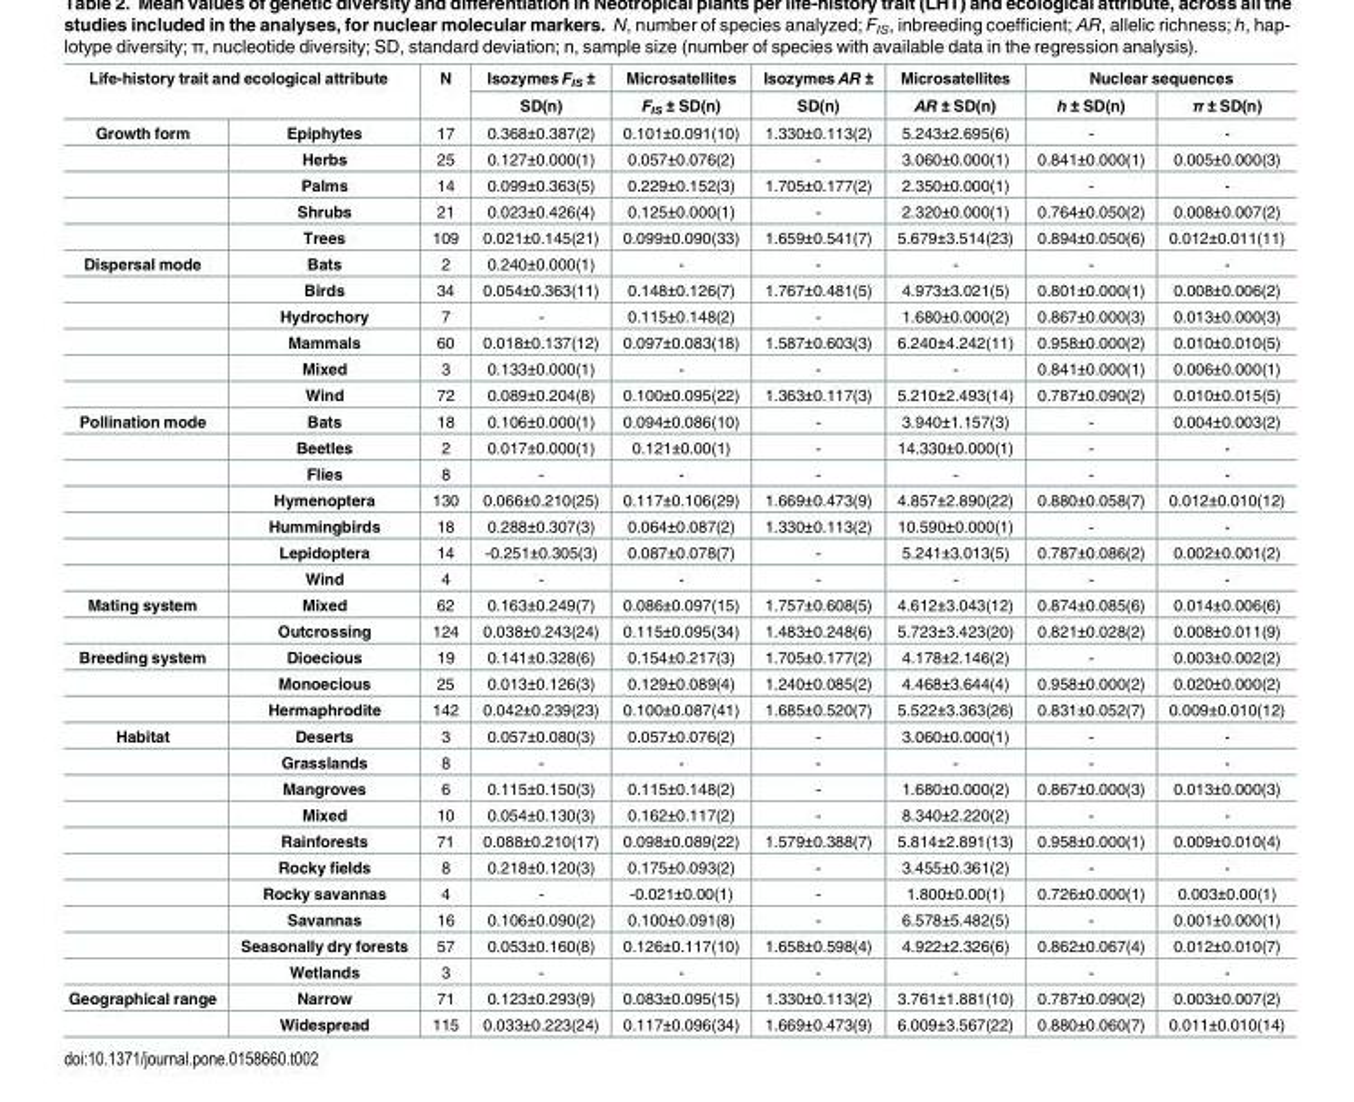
<table><thead><tr><td rowspan="2" colspan="2">Life-history trait and ecological attribute</td><td rowspan="3">N 17</td><td rowspan="3">Isozymes F<sub>IS</sub> ± SD(n) 0.368±0.387(2)</td><td rowspan="3">Microsatellites F<sub>IS</sub> ± SD(n) 0.101±0.091(10)</td><td rowspan="3">Isozymes AR ± SD(n) 1.330±0.113(2)</td><td rowspan="3">Microsatellites AR ± SD(n) 5.243±2.695(6)</td><td colspan="2">Nuclear sequences</td></tr><tr><td rowspan="2">h ± SD(n) -</td><td rowspan="2">π ± SD(n) -</td></tr><tr><td>Growth form</td><td>Epiphytes</td></tr></thead><tbody><tr><td></td><td>Herbs</td><td>25</td><td>0.127±0.000(1)</td><td>0.057±0.076(2)</td><td>-</td><td>3.060±0.000(1)</td><td>0.841±0.000(1)</td><td>0.005±0.000(3)</td></tr><tr><td></td><td>Palms</td><td>14</td><td>0.099±0.363(5)</td><td>0.229±0.152(3)</td><td>1.705±0.177(2)</td><td>2.350±0.000(1)</td><td>-</td><td>-</td></tr><tr><td></td><td>Shrubs</td><td>21</td><td>0.023±0.426(4)</td><td>0.125±0.000(1)</td><td>-</td><td>2.320±0.000(1)</td><td>0.764±0.050(2)</td><td>0.008±0.007(2)</td></tr><tr><td></td><td>Trees</td><td>109</td><td>0.021±0.145(21)</td><td>0.099±0.090(33)</td><td>1.659±0.541(7)</td><td>5.679±3.514(23)</td><td>0.894±0.050(6)</td><td>0.012±0.011(11)</td></tr><tr><td rowspan="6">Dispersal mode</td><td>Bats</td><td>2</td><td>0.240±0.000(1)</td><td>-</td><td>-</td><td>-</td><td>-</td><td>-</td></tr><tr><td>Birds</td><td>34</td><td>0.054±0.363(11)</td><td>0.148±0.126(7)</td><td>1.767±0.481(5)</td><td>4.973±3.021(5)</td><td>0.801±0.000(1)</td><td>0.008±0.006(2)</td></tr><tr><td>Hydrochory</td><td>7</td><td>-</td><td>0.115±0.148(2)</td><td>-</td><td>1.680±0.000(2)</td><td>0.867±0.000(3)</td><td>0.013±0.000(3)</td></tr><tr><td>Mammals</td><td>60</td><td>0.018±0.137(12)</td><td>0.097±0.083(18)</td><td>1.587±0.603(3)</td><td>6.240±4.242(11)</td><td>0.958±0.000(2)</td><td>0.010±0.010(5)</td></tr><tr><td>Mixed</td><td>3</td><td>0.133±0.000(1)</td><td>-</td><td>-</td><td>-</td><td>0.841±0.000(1)</td><td>0.006±0.000(1)</td></tr><tr><td>Wind</td><td>72</td><td>0.089±0.204(8)</td><td>0.100±0.095(22)</td><td>1.363±0.117(3)</td><td>5.210±2.493(14)</td><td>0.787±0.090(2)</td><td>0.010±0.015(5)</td></tr><tr><td rowspan="7">Pollination mode</td><td>Bats</td><td>18</td><td>0.106±0.000(1)</td><td>0.094±0.086(10)</td><td>-</td><td>3.940±1.157(3)</td><td>-</td><td>0.004±0.003(2)</td></tr><tr><td>Beetles</td><td>2</td><td>0.017±0.000(1)</td><td>0.121±0.00(1)</td><td>-</td><td>14.330±0.000(1)</td><td>-</td><td>-</td></tr><tr><td>Flies</td><td>8</td><td>-</td><td>-</td><td>-</td><td>-</td><td>-</td><td>-</td></tr><tr><td>Hymenoptera</td><td>130</td><td>0.066±0.210(25)</td><td>0.117±0.106(29)</td><td>1.669±0.473(9)</td><td>4.857±2.890(22)</td><td>0.880±0.058(7)</td><td>0.012±0.010(12)</td></tr><tr><td>Hummingbirds</td><td>18</td><td>0.288±0.307(3)</td><td>0.064±0.087(2)</td><td>1.330±0.113(2)</td><td>10.590±0.000(1)</td><td>-</td><td>-</td></tr><tr><td>Lepidoptera</td><td>14</td><td>-0.251±0.305(3)</td><td>0.087±0.078(7)</td><td>-</td><td>5.241±3.013(5)</td><td>0.787±0.086(2)</td><td>0.002±0.001(2)</td></tr><tr><td>Wind</td><td>4</td><td>-</td><td>-</td><td>-</td><td>-</td><td>-</td><td>-</td></tr><tr><td rowspan="2">Mating system</td><td>Mixed</td><td>62</td><td>0.163±0.249(7)</td><td>0.086±0.097(15)</td><td>1.757±0.608(5)</td><td>4.612±3.043(12)</td><td>0.874±0.085(6)</td><td>0.014±0.006(6)</td></tr><tr><td>Outcrossing</td><td>124</td><td>0.038±0.243(24)</td><td>0.115±0.095(34)</td><td>1.483±0.248(6)</td><td>5.723±3.423(20)</td><td>0.821±0.028(2)</td><td>0.008±0.011(9)</td></tr><tr><td rowspan="3">Breeding system</td><td>Dioecious</td><td>19</td><td>0.141±0.328(6)</td><td>0.154±0.217(3)</td><td>1.705±0.177(2)</td><td>4.178±2.146(2)</td><td>-</td><td>0.003±0.002(2)</td></tr><tr><td>Monoecious</td><td>25</td><td>0.013±0.126(3)</td><td>0.129±0.089(4)</td><td>1.240±0.085(2)</td><td>4.468±3.644(4)</td><td>0.958±0.000(2)</td><td>0.020±0.000(2)</td></tr><tr><td>Hermaphrodite</td><td>142</td><td>0.042±0.239(23)</td><td>0.100±0.087(41)</td><td>1.685±0.520(7)</td><td>5.522±3.363(26)</td><td>0.831±0.052(7)</td><td>0.009±0.010(12)</td></tr><tr><td rowspan="10">Habitat</td><td>Deserts</td><td>3</td><td>0.057±0.080(3)</td><td>0.057±0.076(2)</td><td>-</td><td>3.060±0.000(1)</td><td>-</td><td>-</td></tr><tr><td>Grasslands</td><td>8</td><td>-</td><td>-</td><td>-</td><td>-</td><td>-</td><td>-</td></tr><tr><td>Mangroves</td><td>6</td><td>0.115±0.150(3)</td><td>0.115±0.148(2)</td><td>-</td><td>1.680±0.000(2)</td><td>0.867±0.000(3)</td><td>0.013±0.000(3)</td></tr><tr><td>Mixed</td><td>10</td><td>0.054±0.130(3)</td><td>0.162±0.117(2)</td><td>-</td><td>8.340±2.220(2)</td><td>-</td><td>-</td></tr><tr><td>Rainforests</td><td>71</td><td>0.088±0.210(17)</td><td>0.098±0.089(22)</td><td>1.579±0.388(7)</td><td>5.814±2.891(13)</td><td>0.958±0.000(1)</td><td>0.009±0.010(4)</td></tr><tr><td>Rocky fields</td><td>8</td><td>0.218±0.120(3)</td><td>0.175±0.093(2)</td><td>-</td><td>3.455±0.361(2)</td><td>-</td><td>-</td></tr><tr><td>Rocky savannas</td><td>4</td><td>-</td><td>-0.021±0.00(1)</td><td>-</td><td>1.800±0.00(1)</td><td>0.726±0.000(1)</td><td>0.003±0.00(1)</td></tr><tr><td>Savannas</td><td>16</td><td>0.106±0.090(2)</td><td>0.100±0.091(8)</td><td>-</td><td>6.578±5.482(5)</td><td>-</td><td>0.001±0.000(1)</td></tr><tr><td>Seasonally dry forests</td><td>57</td><td>0.053±0.160(8)</td><td>0.126±0.117(10)</td><td>1.658±0.598(4)</td><td>4.922±2.326(6)</td><td>0.862±0.067(4)</td><td>0.012±0.010(7)</td></tr><tr><td>Wetlands</td><td>3</td><td>-</td><td>-</td><td>-</td><td>-</td><td>-</td><td>-</td></tr><tr><td rowspan="2">Geographical range</td><td>Narrow</td><td>71</td><td>0.123±0.293(9)</td><td>0.083±0.095(15)</td><td>1.330±0.113(2)</td><td>3.761±1.881(10)</td><td>0.787±0.090(2)</td><td>0.003±0.007(2)</td></tr><tr><td>Widespread</td><td>115</td><td>0.033±0.223(24)</td><td>0.117±0.096(34)</td><td>1.669±0.473(9)</td><td>6.009±3.567(22)</td><td>0.880±0.060(7)</td><td>0.011±0.010(14)</td></tr></tbody></table>